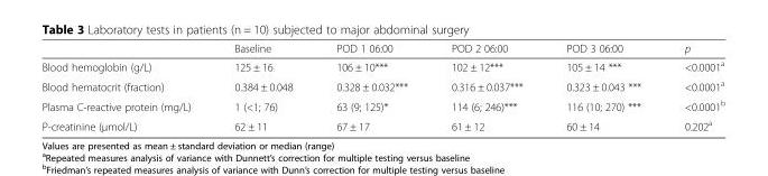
<table><thead><tr><td></td><td>Baseline</td><td>POD 1 06:00</td><td>POD 2 06:00</td><td>POD 3 06:00</td><td>p</td></tr></thead><tbody><tr><td>Blood hemoglobin (g/L)</td><td>125 ± 16</td><td>106 ± 10***</td><td>102 ± 12***</td><td>105 ± 14 ***</td><td>&lt;0.0001<sup>a</sup></td></tr><tr><td>Blood hematocrit (fraction)</td><td>0.384 ± 0.048</td><td>0.328 ± 0.032***</td><td>0.316 ± 0.037***</td><td>0.323 ± 0.043 ***</td><td>&lt;0.0001<sup>a</sup></td></tr><tr><td>Plasma C-reactive protein (mg/L)</td><td>1 (&lt;1; 76)</td><td>63 (9; 125)*</td><td>114 (6; 246)***</td><td>116 (10; 270) ***</td><td>&lt;0.0001<sup>b</sup></td></tr><tr><td>P-creatinine (μmol/L)</td><td>62 ± 11</td><td>67 ± 17</td><td>61 ± 12</td><td>60 ± 14</td><td>0.202<sup>a</sup></td></tr></tbody></table>